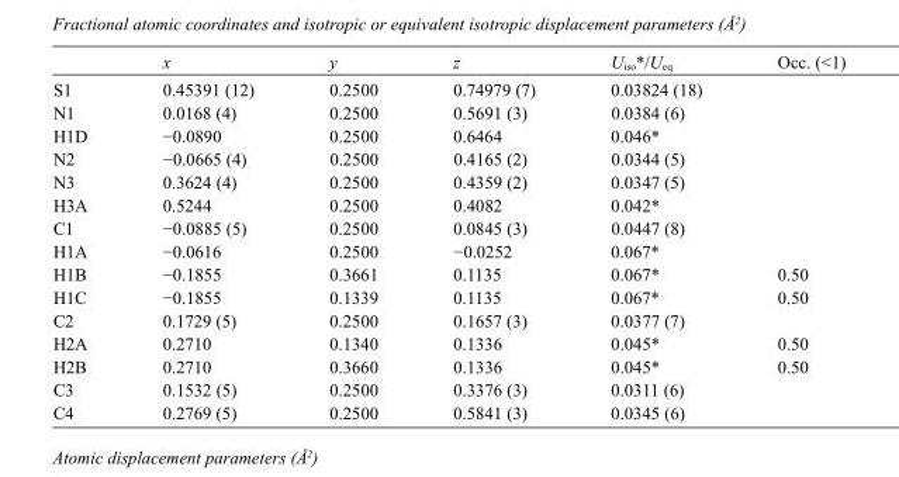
<table><thead><tr><td></td><td>x</td><td>y</td><td>z</td><td>U<sub>iso</sub>*/U<sub>eq</sub></td><td>Occ. (&lt;1)</td></tr></thead><tbody><tr><td>S1</td><td>0.45391 (12)</td><td>0.2500</td><td>0.74979 (7)</td><td>0.03824 (18)</td><td></td></tr><tr><td>N1</td><td>0.0168 (4)</td><td>0.2500</td><td>0.5691 (3)</td><td>0.0384 (6)</td><td></td></tr><tr><td>H1D</td><td>−0.0890</td><td>0.2500</td><td>0.6464</td><td>0.046*</td><td></td></tr><tr><td>N2</td><td>−0.0665 (4)</td><td>0.2500</td><td>0.4165 (2)</td><td>0.0344 (5)</td><td></td></tr><tr><td>N3</td><td>0.3624 (4)</td><td>0.2500</td><td>0.4359 (2)</td><td>0.0347 (5)</td><td></td></tr><tr><td>H3A</td><td>0.5244</td><td>0.2500</td><td>0.4082</td><td>0.042*</td><td></td></tr><tr><td>C1</td><td>−0.0885 (5)</td><td>0.2500</td><td>0.0845 (3)</td><td>0.0447 (8)</td><td></td></tr><tr><td>H1A</td><td>−0.0616</td><td>0.2500</td><td>−0.0252</td><td>0.067*</td><td></td></tr><tr><td>H1B</td><td>−0.1855</td><td>0.3661</td><td>0.1135</td><td>0.067*</td><td>0.50</td></tr><tr><td>H1C</td><td>−0.1855</td><td>0.1339</td><td>0.1135</td><td>0.067*</td><td>0.50</td></tr><tr><td>C2</td><td>0.1729 (5)</td><td>0.2500</td><td>0.1657 (3)</td><td>0.0377 (7)</td><td></td></tr><tr><td>H2A</td><td>0.2710</td><td>0.1340</td><td>0.1336</td><td>0.045*</td><td>0.50</td></tr><tr><td>H2B</td><td>0.2710</td><td>0.3660</td><td>0.1336</td><td>0.045*</td><td>0.50</td></tr><tr><td>C3</td><td>0.1532 (5)</td><td>0.2500</td><td>0.3376 (3)</td><td>0.0311 (6)</td><td></td></tr><tr><td>C4</td><td>0.2769 (5)</td><td>0.2500</td><td>0.5841 (3)</td><td>0.0345 (6)</td><td></td></tr></tbody></table>